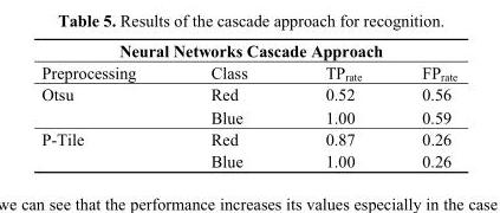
<table><thead><tr><td colspan="4">Neural Networks Cascade Approach</td></tr><tr><td>Preprocessing</td><td>Class</td><td>TP<sub>rate</sub></td><td>FP<sub>rate</sub></td></tr></thead><tbody><tr><td rowspan="2">Otsu</td><td>Red</td><td>0.52</td><td>0.56</td></tr><tr><td>Blue</td><td>1.00</td><td>0.59</td></tr><tr><td rowspan="2">P-Tile</td><td>Red</td><td>0.87</td><td>0.26</td></tr><tr><td>Blue</td><td>1.00</td><td>0.26</td></tr></tbody></table>